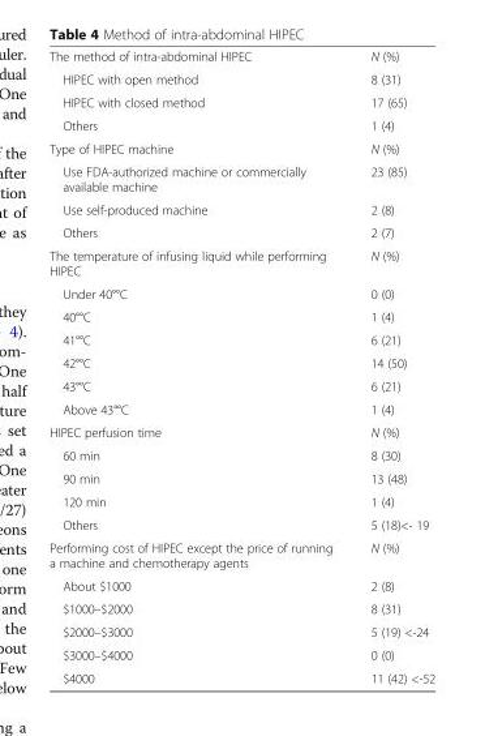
<table><tbody><tr><td>The method of intra-abdominal HIPEC</td><td>N (%)</td></tr><tr><td>HIPEC with open method</td><td>8 (31)</td></tr><tr><td>HIPEC with closed method</td><td>17 (65)</td></tr><tr><td>Others</td><td>1 (4)</td></tr><tr><td>Type of HIPEC machine</td><td>N (%)</td></tr><tr><td>Use FDA-authorized machine or commercially available machine</td><td>23 (85)</td></tr><tr><td>Use self-produced machine</td><td>2 (8)</td></tr><tr><td>Others</td><td>2 (7)</td></tr><tr><td>The temperature of infusing liquid while performing HIPEC</td><td>N (%)</td></tr><tr><td>Under 40°°C</td><td>0 (0)</td></tr><tr><td>40°°C</td><td>1 (4)</td></tr><tr><td>41°°C</td><td>6 (21)</td></tr><tr><td>42°°C</td><td>14 (50)</td></tr><tr><td>43°°C</td><td>6 (21)</td></tr><tr><td>Above 43°°C</td><td>1 (4)</td></tr><tr><td>HIPEC perfusion time</td><td>N (%)</td></tr><tr><td>60 min</td><td>8 (30)</td></tr><tr><td>90 min</td><td>13 (48)</td></tr><tr><td>120 min</td><td>1 (4)</td></tr><tr><td>Others</td><td>5 (18)&lt;- 19</td></tr><tr><td>Performing cost of HIPEC except the price of running a machine and chemotherapy agents</td><td>N (%)</td></tr><tr><td>About $1000</td><td>2 (8)</td></tr><tr><td>$1000–$2000</td><td>8 (31)</td></tr><tr><td>$2000–$3000</td><td>5 (19) &lt;-24</td></tr><tr><td>$3000–$4000</td><td>0 (0)</td></tr><tr><td>$4000</td><td>11 (42) &lt;-52</td></tr></tbody></table>